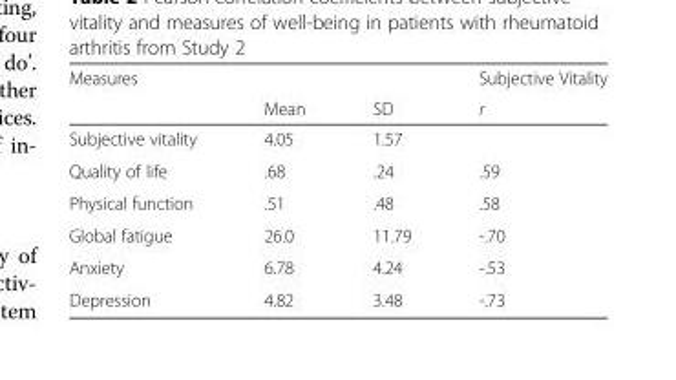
<table><thead><tr><td rowspan="2">Measures</td><td rowspan="2">Mean</td><td rowspan="2">SD</td><td rowspan="2">Subjective Vitality r</td></tr><tr></tr></thead><tbody><tr><td>Subjective vitality</td><td>4.05</td><td>1.57</td><td></td></tr><tr><td>Quality of life</td><td>.68</td><td>.24</td><td>.59</td></tr><tr><td>Physical function</td><td>.51</td><td>.48</td><td>.58</td></tr><tr><td>Global fatigue</td><td>26.0</td><td>11.79</td><td>-.70</td></tr><tr><td>Anxiety</td><td>6.78</td><td>4.24</td><td>-.53</td></tr><tr><td>Depression</td><td>4.82</td><td>3.48</td><td>-.73</td></tr></tbody></table>